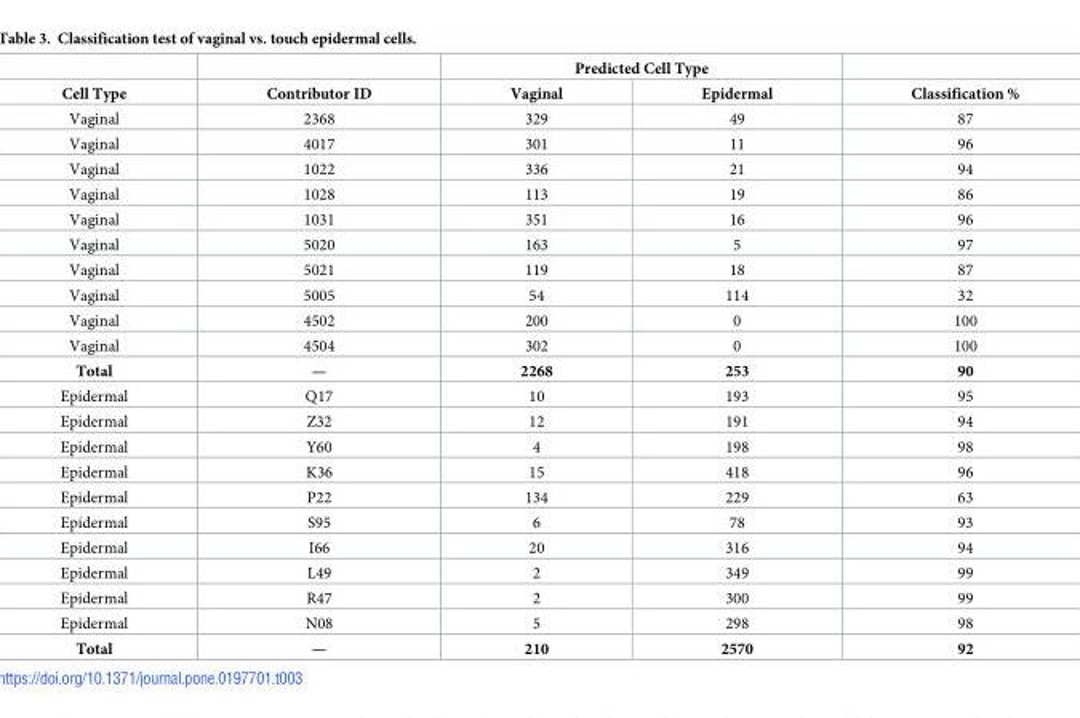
<table><thead><tr><td rowspan="2">Cell Type</td><td rowspan="2">Contributor ID</td><td colspan="2">Predicted Cell Type</td><td rowspan="2">Classification %</td></tr><tr><td>Vaginal</td><td>Epidermal</td></tr></thead><tbody><tr><td>Vaginal</td><td>2368</td><td>329</td><td>49</td><td>87</td></tr><tr><td>Vaginal</td><td>4017</td><td>301</td><td>11</td><td>96</td></tr><tr><td>Vaginal</td><td>1022</td><td>336</td><td>21</td><td>94</td></tr><tr><td>Vaginal</td><td>1028</td><td>113</td><td>19</td><td>86</td></tr><tr><td>Vaginal</td><td>1031</td><td>351</td><td>16</td><td>96</td></tr><tr><td>Vaginal</td><td>5020</td><td>163</td><td>5</td><td>97</td></tr><tr><td>Vaginal</td><td>5021</td><td>119</td><td>18</td><td>87</td></tr><tr><td>Vaginal</td><td>5005</td><td>54</td><td>114</td><td>32</td></tr><tr><td>Vaginal</td><td>4502</td><td>200</td><td>0</td><td>100</td></tr><tr><td>Vaginal</td><td>4504</td><td>302</td><td>0</td><td>100</td></tr><tr><td>Total</td><td>—</td><td>2268</td><td>253</td><td>90</td></tr><tr><td>Epidermal</td><td>Q17</td><td>10</td><td>193</td><td>95</td></tr><tr><td>Epidermal</td><td>Z32</td><td>12</td><td>191</td><td>94</td></tr><tr><td>Epidermal</td><td>Y60</td><td>4</td><td>198</td><td>98</td></tr><tr><td>Epidermal</td><td>K36</td><td>15</td><td>418</td><td>96</td></tr><tr><td>Epidermal</td><td>P22</td><td>134</td><td>229</td><td>63</td></tr><tr><td>Epidermal</td><td>S95</td><td>6</td><td>78</td><td>93</td></tr><tr><td>Epidermal</td><td>I66</td><td>20</td><td>316</td><td>94</td></tr><tr><td>Epidermal</td><td>L49</td><td>2</td><td>349</td><td>99</td></tr><tr><td>Epidermal</td><td>R47</td><td>2</td><td>300</td><td>99</td></tr><tr><td>Epidermal</td><td>N08</td><td>5</td><td>298</td><td>98</td></tr><tr><td>Total</td><td>—</td><td>210</td><td>2570</td><td>92</td></tr></tbody></table>